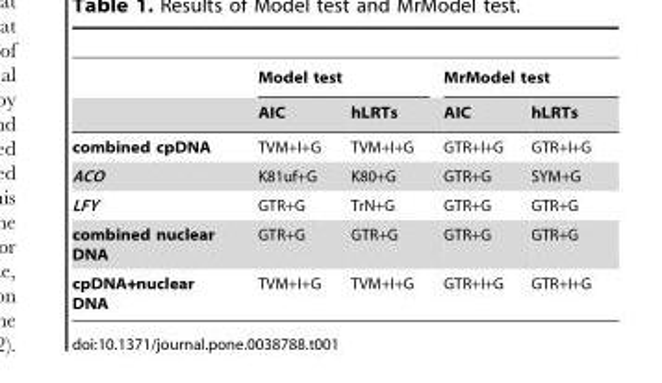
<table><thead><tr><td rowspan="2"></td><td colspan="2">Model test</td><td colspan="2">MrModel test</td></tr><tr><td>AIC</td><td>hLRTs</td><td>AIC</td><td>hLRTs</td></tr></thead><tbody><tr><td>combined cpDNA</td><td>TVM+I+G</td><td>TVM+I+G</td><td>GTR+I+G</td><td>GTR+I+G</td></tr><tr><td>ACO</td><td>K81uf+G</td><td>K80+G</td><td>GTR+G</td><td>SYM+G</td></tr><tr><td>LFY</td><td>GTR+G</td><td>TrN+G</td><td>GTR+G</td><td>GTR+G</td></tr><tr><td>combined nuclear DNA</td><td>GTR+G</td><td>GTR+G</td><td>GTR+G</td><td>GTR+G</td></tr><tr><td>cpDNA+nuclear DNA</td><td>TVM+I+G</td><td>TVM+I+G</td><td>GTR+I+G</td><td>GTR+I+G</td></tr></tbody></table>